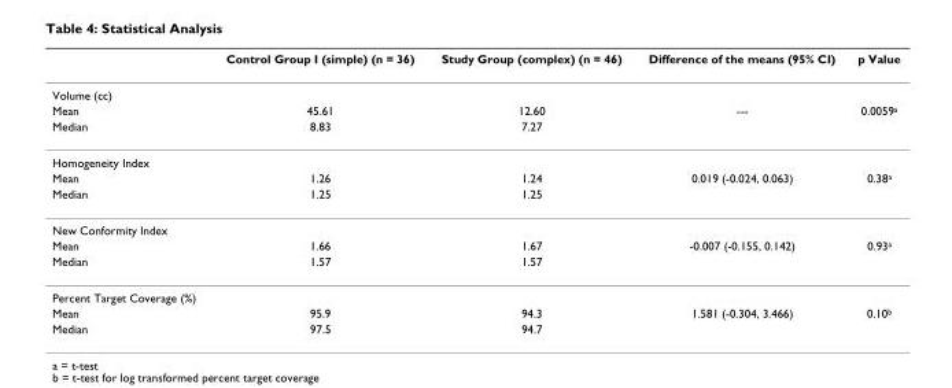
<table><thead><tr><td></td><td>Control Group I (simple) (n = 36)</td><td>Study Group (complex) (n = 46)</td><td>Difference of the means (95% CI)</td><td>p Value</td></tr></thead><tbody><tr><td colspan="5">Volume (cc)</td></tr><tr><td>Mean</td><td>45.61</td><td>12.60</td><td>---</td><td>0.0059<sup>a</sup></td></tr><tr><td>Median</td><td>8.83</td><td>7.27</td><td></td><td></td></tr><tr><td colspan="5">Homogeneity Index</td></tr><tr><td>Mean</td><td>1.26</td><td>1.24</td><td>0.019 (-0.024, 0.063)</td><td>0.38<sup>a</sup></td></tr><tr><td>Median</td><td>1.25</td><td>1.25</td><td></td><td></td></tr><tr><td colspan="5">New Conformity Index</td></tr><tr><td>Mean</td><td>1.66</td><td>1.67</td><td>-0.007 (-0.155, 0.142)</td><td>0.93<sup>a</sup></td></tr><tr><td>Median</td><td>1.57</td><td>1.57</td><td></td><td></td></tr><tr><td colspan="5">Percent Target Coverage (%)</td></tr><tr><td>Mean</td><td>95.9</td><td>94.3</td><td>1.581 (-0.304, 3.466)</td><td>0.10<sup>b</sup></td></tr><tr><td>Median</td><td>97.5</td><td>94.7</td><td></td><td></td></tr></tbody></table>